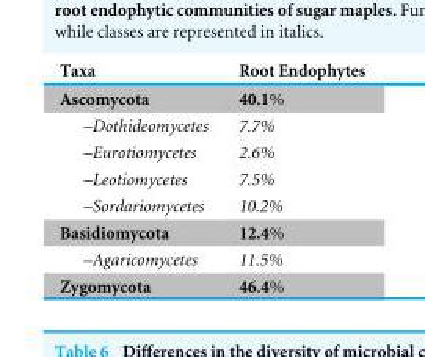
<table><thead><tr><td>Taxa</td><td>Root Endophytes</td></tr></thead><tbody><tr><td>Ascomycota</td><td>40.1%</td></tr><tr><td>–Dothideomycetes</td><td>7.7%</td></tr><tr><td>–Eurotiomycetes</td><td>2.6%</td></tr><tr><td>–Leotiomycetes</td><td>7.5%</td></tr><tr><td>–Sordariomycetes</td><td>10.2%</td></tr><tr><td>Basidiomycota</td><td>12.4%</td></tr><tr><td>–Agaricomycetes</td><td>11.5%</td></tr><tr><td>Zygomycota</td><td>46.4%</td></tr></tbody></table>